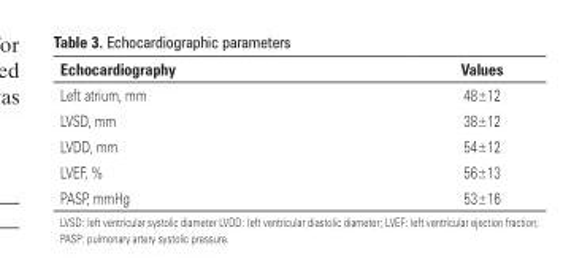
<table><thead><tr><td>Echocardiography</td><td>Values</td></tr></thead><tbody><tr><td>Left atrium, mm</td><td>48±12</td></tr><tr><td>LVSD, mm</td><td>38±12</td></tr><tr><td>LVDD, mm</td><td>54±12</td></tr><tr><td>LVEF, %</td><td>56±13</td></tr><tr><td>PASP, mmHg</td><td>53±16</td></tr></tbody></table>